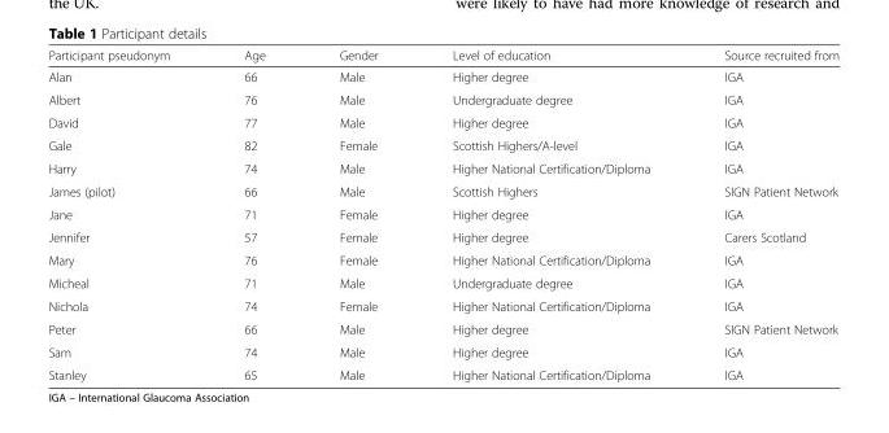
<table><thead><tr><td>Participant pseudonym</td><td>Age</td><td>Gender</td><td>Level of education</td><td>Source recruited from</td></tr></thead><tbody><tr><td>Alan</td><td>66</td><td>Male</td><td>Higher degree</td><td>IGA</td></tr><tr><td>Albert</td><td>76</td><td>Male</td><td>Undergraduate degree</td><td>IGA</td></tr><tr><td>David</td><td>77</td><td>Male</td><td>Higher degree</td><td>IGA</td></tr><tr><td>Gale</td><td>82</td><td>Female</td><td>Scottish Highers/A-level</td><td>IGA</td></tr><tr><td>Harry</td><td>74</td><td>Male</td><td>Higher National Certification/Diploma</td><td>IGA</td></tr><tr><td>James (pilot)</td><td>66</td><td>Male</td><td>Scottish Highers</td><td>SIGN Patient Network</td></tr><tr><td>Jane</td><td>71</td><td>Female</td><td>Higher degree</td><td>IGA</td></tr><tr><td>Jennifer</td><td>57</td><td>Female</td><td>Higher degree</td><td>Carers Scotland</td></tr><tr><td>Mary</td><td>76</td><td>Female</td><td>Higher National Certification/Diploma</td><td>IGA</td></tr><tr><td>Micheal</td><td>71</td><td>Male</td><td>Undergraduate degree</td><td>IGA</td></tr><tr><td>Nichola</td><td>74</td><td>Female</td><td>Higher National Certification/Diploma</td><td>IGA</td></tr><tr><td>Peter</td><td>66</td><td>Male</td><td>Higher degree</td><td>SIGN Patient Network</td></tr><tr><td>Sam</td><td>74</td><td>Male</td><td>Higher degree</td><td>IGA</td></tr><tr><td>Stanley</td><td>65</td><td>Male</td><td>Higher National Certification/Diploma</td><td>IGA</td></tr></tbody></table>